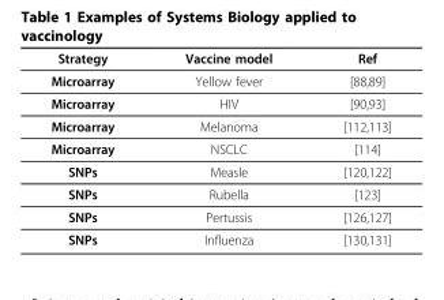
<table><thead><tr><td>Strategy</td><td>Vaccine model</td><td>Ref</td></tr></thead><tbody><tr><td>Microarray</td><td>Yellow fever</td><td>[88,89]</td></tr><tr><td>Microarray</td><td>HIV</td><td>[90,93]</td></tr><tr><td>Microarray</td><td>Melanoma</td><td>[112,113]</td></tr><tr><td>Microarray</td><td>NSCLC</td><td>[114]</td></tr><tr><td>SNPs</td><td>Measle</td><td>[120,122]</td></tr><tr><td>SNPs</td><td>Rubella</td><td>[123]</td></tr><tr><td>SNPs</td><td>Pertussis</td><td>[126,127]</td></tr><tr><td>SNPs</td><td>Influenza</td><td>[130,131]</td></tr></tbody></table>